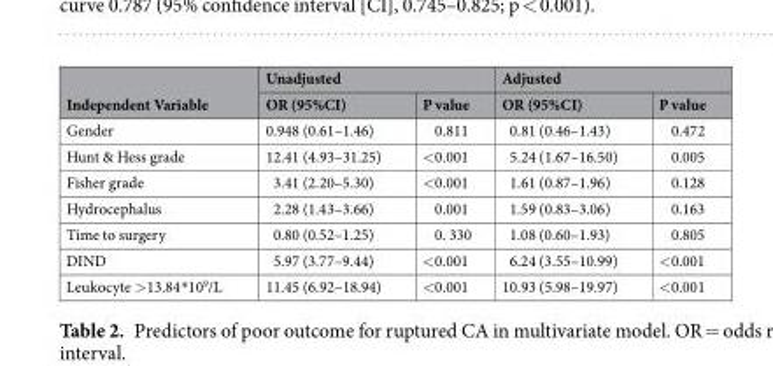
<table><thead><tr><td rowspan="2">Independent Variable</td><td colspan="2">Unadjusted</td><td colspan="2">Adjusted</td></tr><tr><td>OR (95%CI)</td><td>P value</td><td>OR (95%CI)</td><td>P value</td></tr></thead><tbody><tr><td>Gender</td><td>0.948 (0.61–1.46)</td><td>0.811</td><td>0.81 (0.46–1.43)</td><td>0.472</td></tr><tr><td>Hunt &amp; Hess grade</td><td>12.41 (4.93–31.25)</td><td>&lt;0.001</td><td>5.24 (1.67–16.50)</td><td>0.005</td></tr><tr><td>Fisher grade</td><td>3.41 (2.20–5.30)</td><td>&lt;0.001</td><td>1.61 (0.87–1.96)</td><td>0.128</td></tr><tr><td>Hydrocephalus</td><td>2.28 (1.43–3.66)</td><td>0.001</td><td>1.59 (0.83–3.06)</td><td>0.163</td></tr><tr><td>Time to surgery</td><td>0.80 (0.52–1.25)</td><td>0. 330</td><td>1.08 (0.60–1.93)</td><td>0.805</td></tr><tr><td>DIND</td><td>5.97 (3.77–9.44)</td><td>&lt;0.001</td><td>6.24 (3.55–10.99)</td><td>&lt;0.001</td></tr><tr><td>Leukocyte &gt;13.84*10<sup>9</sup>/L</td><td>11.45 (6.92–18.94)</td><td>&lt;0.001</td><td>10.93 (5.98–19.97)</td><td>&lt;0.001</td></tr></tbody></table>